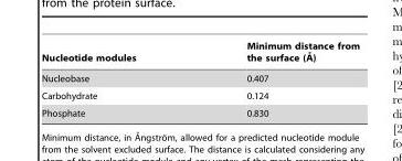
<table><thead><tr><td>Nucleotide modules</td><td>Minimum distance from the surface (A˚)</td></tr></thead><tbody><tr><td>Nucleobase</td><td>0.407</td></tr><tr><td>Carbohydrate</td><td>0.124</td></tr><tr><td>Phosphate</td><td>0.830</td></tr></tbody></table>